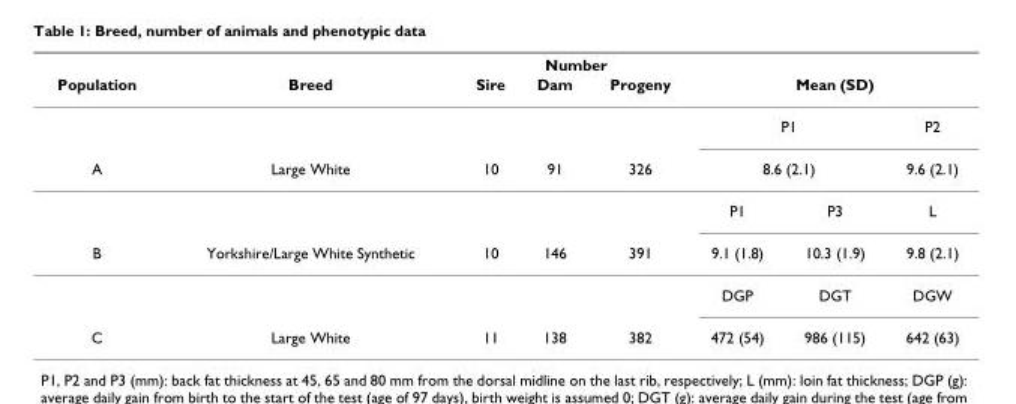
<table><thead><tr><td rowspan="2">Population</td><td rowspan="2">Breed</td><td colspan="3">Number</td><td></td><td></td><td></td></tr><tr><td>Sire</td><td>Dam</td><td>Progeny</td><td colspan="3">Mean (SD)</td></tr></thead><tbody><tr><td></td><td></td><td></td><td></td><td></td><td colspan="2">P1</td><td>P2</td></tr><tr><td rowspan="2">A</td><td>Large White</td><td>10</td><td>91</td><td>326</td><td colspan="2">8.6 (2.1)</td><td>9.6 (2.1)</td></tr><tr><td></td><td></td><td></td><td></td><td>P1</td><td>P3</td><td>L</td></tr><tr><td rowspan="2">B</td><td>Yorkshire/Large White Synthetic</td><td>10</td><td>146</td><td>391</td><td>9.1 (1.8)</td><td>10.3 (1.9)</td><td>9.8 (2.1)</td></tr><tr><td></td><td></td><td></td><td></td><td>DGP</td><td>DGT</td><td>DGW</td></tr><tr><td>C</td><td>Large White</td><td>11</td><td>138</td><td>382</td><td>472 (54)</td><td>986 (115)</td><td>642 (63)</td></tr></tbody></table>